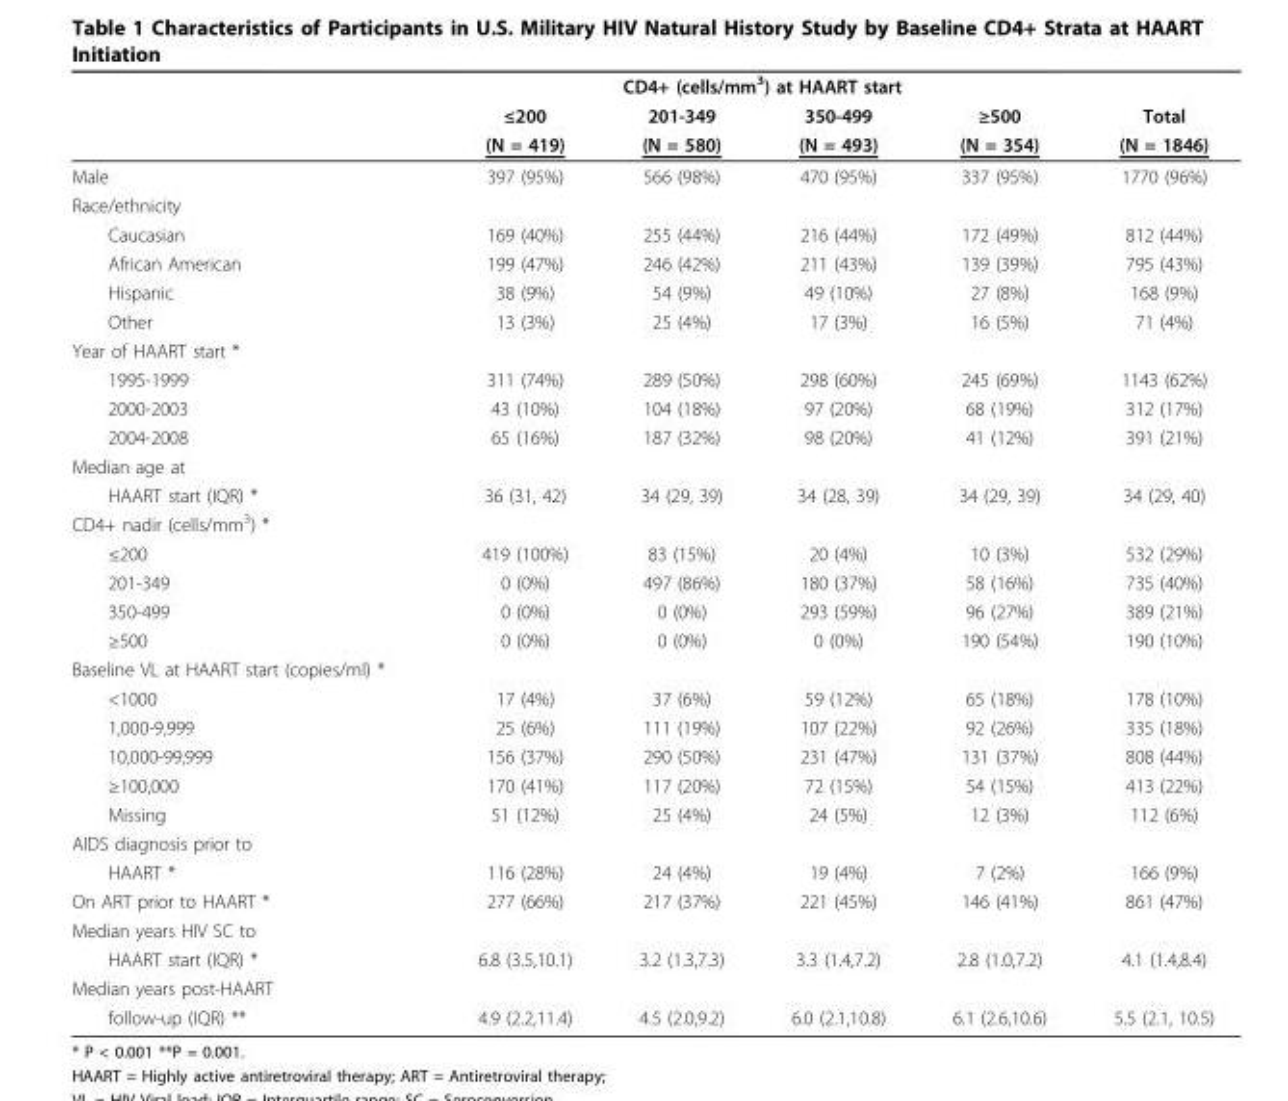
<table><thead><tr><td rowspan="3"></td><td colspan="4">CD4+ (cells/mm<sup>3</sup>) at HAART start</td><td rowspan="3">Total (N = 1846)</td></tr><tr><td rowspan="2">≤200 (N = 419)</td><td rowspan="2">201-349 (N = 580)</td><td rowspan="2">350-499 (N = 493)</td><td rowspan="2">≥500 (N = 354)</td></tr><tr></tr></thead><tbody><tr><td>Male</td><td>397 (95%)</td><td>566 (98%)</td><td>470 (95%)</td><td>337 (95%)</td><td>1770 (96%)</td></tr><tr><td colspan="6">Race/ethnicity</td></tr><tr><td>Caucasian</td><td>169 (40%)</td><td>255 (44%)</td><td>216 (44%)</td><td>172 (49%)</td><td>812 (44%)</td></tr><tr><td>African American</td><td>199 (47%)</td><td>246 (42%)</td><td>211 (43%)</td><td>139 (39%)</td><td>795 (43%)</td></tr><tr><td>Hispanic</td><td>38 (9%)</td><td>54 (9%)</td><td>49 (10%)</td><td>27 (8%)</td><td>168 (9%)</td></tr><tr><td>Other</td><td>13 (3%)</td><td>25 (4%)</td><td>17 (3%)</td><td>16 (5%)</td><td>71 (4%)</td></tr><tr><td colspan="6">Year of HAART start *</td></tr><tr><td>1995-1999</td><td>311 (74%)</td><td>289 (50%)</td><td>298 (60%)</td><td>245 (69%)</td><td>1143 (62%)</td></tr><tr><td>2000-2003</td><td>43 (10%)</td><td>104 (18%)</td><td>97 (20%)</td><td>68 (19%)</td><td>312 (17%)</td></tr><tr><td>2004-2008</td><td>65 (16%)</td><td>187 (32%)</td><td>98 (20%)</td><td>41 (12%)</td><td>391 (21%)</td></tr><tr><td colspan="6">Median age at</td></tr><tr><td>HAART start (IQR) *</td><td>36 (31, 42)</td><td>34 (29, 39)</td><td>34 (28, 39)</td><td>34 (29, 39)</td><td>34 (29, 40)</td></tr><tr><td colspan="6">CD4+ nadir (cells/mm<sup>3</sup>) *</td></tr><tr><td>≤200</td><td>419 (100%)</td><td>83 (15%)</td><td>20 (4%)</td><td>10 (3%)</td><td>532 (29%)</td></tr><tr><td>201-349</td><td>0 (0%)</td><td>497 (86%)</td><td>180 (37%)</td><td>58 (16%)</td><td>735 (40%)</td></tr><tr><td>350-499</td><td>0 (0%)</td><td>0 (0%)</td><td>293 (59%)</td><td>96 (27%)</td><td>389 (21%)</td></tr><tr><td>≥500</td><td>0 (0%)</td><td>0 (0%)</td><td>0 (0%)</td><td>190 (54%)</td><td>190 (10%)</td></tr><tr><td colspan="6">Baseline VL at HAART start (copies/ml) *</td></tr><tr><td>&lt;1000</td><td>17 (4%)</td><td>37 (6%)</td><td>59 (12%)</td><td>65 (18%)</td><td>178 (10%)</td></tr><tr><td>1,000-9,999</td><td>25 (6%)</td><td>111 (19%)</td><td>107 (22%)</td><td>92 (26%)</td><td>335 (18%)</td></tr><tr><td>10,000-99,999</td><td>156 (37%)</td><td>290 (50%)</td><td>231 (47%)</td><td>131 (37%)</td><td>808 (44%)</td></tr><tr><td>≥100,000</td><td>170 (41%)</td><td>117 (20%)</td><td>72 (15%)</td><td>54 (15%)</td><td>413 (22%)</td></tr><tr><td>Missing</td><td>51 (12%)</td><td>25 (4%)</td><td>24 (5%)</td><td>12 (3%)</td><td>112 (6%)</td></tr><tr><td colspan="6">AIDS diagnosis prior to</td></tr><tr><td>HAART *</td><td>116 (28%)</td><td>24 (4%)</td><td>19 (4%)</td><td>7 (2%)</td><td>166 (9%)</td></tr><tr><td>On ART prior to HAART *</td><td>277 (66%)</td><td>217 (37%)</td><td>221 (45%)</td><td>146 (41%)</td><td>861 (47%)</td></tr><tr><td colspan="6">Median years HIV SC to</td></tr><tr><td>HAART start (IQR) *</td><td>6.8 (3.5,10.1)</td><td>3.2 (1.3,7.3)</td><td>3.3 (1.4,7.2)</td><td>2.8 (1.0,7.2)</td><td>4.1 (1.4,8.4)</td></tr><tr><td colspan="6">Median years post-HAART</td></tr><tr><td>follow-up (IQR) **</td><td>4.9 (2.2,11.4)</td><td>4.5 (2.0,9.2)</td><td>6.0 (2.1,10.8)</td><td>6.1 (2.6,10.6)</td><td>5.5 (2.1, 10.5)</td></tr></tbody></table>